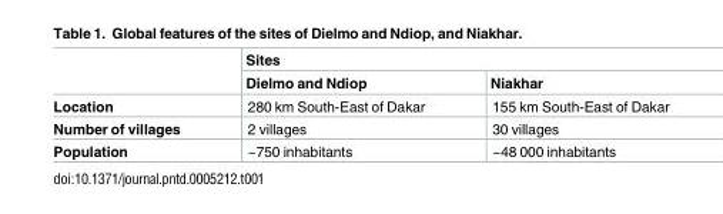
<table><thead><tr><td rowspan="2"></td><td colspan="2">Sites</td></tr><tr><td>Dielmo and Ndiop</td><td>Niakhar</td></tr></thead><tbody><tr><td>Location</td><td>280 km South-East of Dakar</td><td>155 km South-East of Dakar</td></tr><tr><td>Number of villages</td><td>2 villages</td><td>30 villages</td></tr><tr><td>Population</td><td>~750 inhabitants</td><td>~48 000 inhabitants</td></tr></tbody></table>